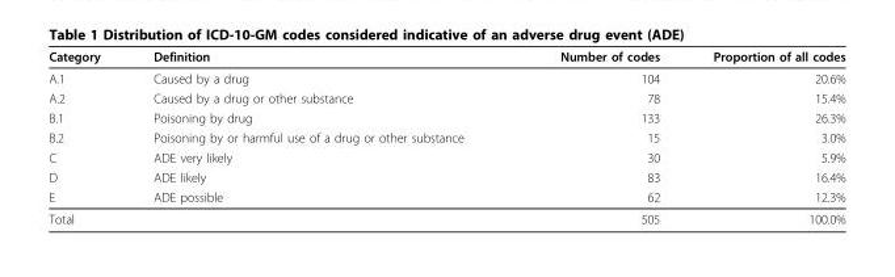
<table><thead><tr><td>Category</td><td>Definition</td><td>Number of codes</td><td>Proportion of all codes</td></tr></thead><tbody><tr><td>A.1</td><td>Caused by a drug</td><td>104</td><td>20.6%</td></tr><tr><td>A.2</td><td>Caused by a drug or other substance</td><td>78</td><td>15.4%</td></tr><tr><td>B.1</td><td>Poisoning by drug</td><td>133</td><td>26.3%</td></tr><tr><td>B.2</td><td>Poisoning by or harmful use of a drug or other substance</td><td>15</td><td>3.0%</td></tr><tr><td>C</td><td>ADE very likely</td><td>30</td><td>5.9%</td></tr><tr><td>D</td><td>ADE likely</td><td>83</td><td>16.4%</td></tr><tr><td>E</td><td>ADE possible</td><td>62</td><td>12.3%</td></tr><tr><td>Total</td><td></td><td>505</td><td>100.0%</td></tr></tbody></table>